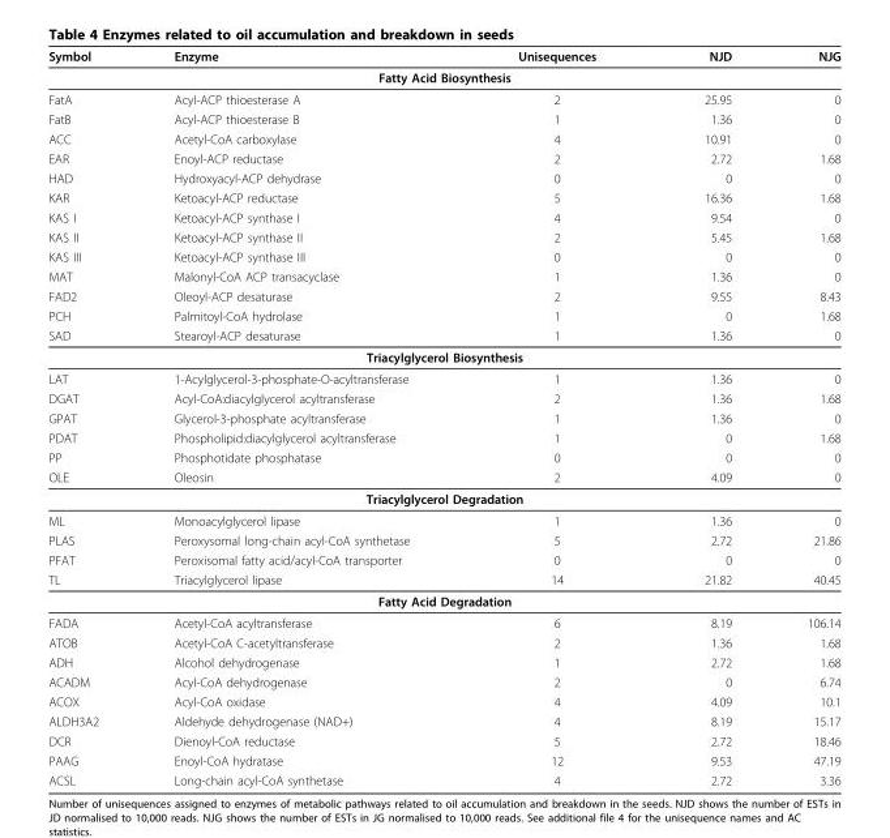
<table><thead><tr><td>Symbol</td><td>Enzyme</td><td>Unisequences</td><td>NJD</td><td>NJG</td></tr></thead><tbody><tr><td colspan="5">Fatty Acid Biosynthesis</td></tr><tr><td>FatA</td><td>Acyl-ACP thioesterase A</td><td>2</td><td>25.95</td><td>0</td></tr><tr><td>FatB</td><td>Acyl-ACP thioesterase B</td><td>1</td><td>1.36</td><td>0</td></tr><tr><td>ACC</td><td>Acetyl-CoA carboxylase</td><td>4</td><td>10.91</td><td>0</td></tr><tr><td>EAR</td><td>Enoyl-ACP reductase</td><td>2</td><td>2.72</td><td>1.68</td></tr><tr><td>HAD</td><td>Hydroxyacyl-ACP dehydrase</td><td>0</td><td>0</td><td>0</td></tr><tr><td>KAR</td><td>Ketoacyl-ACP reductase</td><td>5</td><td>16.36</td><td>1.68</td></tr><tr><td>KAS I</td><td>Ketoacyl-ACP synthase I</td><td>4</td><td>9.54</td><td>0</td></tr><tr><td>KAS II</td><td>Ketoacyl-ACP synthase II</td><td>2</td><td>5.45</td><td>1.68</td></tr><tr><td>KAS III</td><td>Ketoacyl-ACP synthase III</td><td>0</td><td>0</td><td>0</td></tr><tr><td>MAT</td><td>Malonyl-CoA ACP transacyclase</td><td>1</td><td>1.36</td><td>0</td></tr><tr><td>FAD2</td><td>Oleoyl-ACP desaturase</td><td>2</td><td>9.55</td><td>8.43</td></tr><tr><td>PCH</td><td>Palmitoyl-CoA hydrolase</td><td>1</td><td>0</td><td>1.68</td></tr><tr><td>SAD</td><td>Stearoyl-ACP desaturase</td><td>1</td><td>1.36</td><td>0</td></tr><tr><td colspan="5">Triacylglycerol Biosynthesis</td></tr><tr><td>LAT</td><td>1-Acylglycerol-3-phosphate-O-acyltransferase</td><td>1</td><td>1.36</td><td>0</td></tr><tr><td>DGAT</td><td>Acyl-CoA:diacylglycerol acyltransferase</td><td>2</td><td>1.36</td><td>1.68</td></tr><tr><td>GPAT</td><td>Glycerol-3-phosphate acyltransferase</td><td>1</td><td>1.36</td><td>0</td></tr><tr><td>PDAT</td><td>Phospholipid:diacylglycerol acyltransferase</td><td>1</td><td>0</td><td>1.68</td></tr><tr><td>PP</td><td>Phosphotidate phosphatase</td><td>0</td><td>0</td><td>0</td></tr><tr><td>OLE</td><td>Oleosin</td><td>2</td><td>4.09</td><td>0</td></tr><tr><td colspan="5">Triacylglycerol Degradation</td></tr><tr><td>ML</td><td>Monoacylglycerol lipase</td><td>1</td><td>1.36</td><td>0</td></tr><tr><td>PLAS</td><td>Peroxysomal long-chain acyl-CoA synthetase</td><td>5</td><td>2.72</td><td>21.86</td></tr><tr><td>PFAT</td><td>Peroxisomal fatty acid/acyl-CoA transporter</td><td>0</td><td>0</td><td>0</td></tr><tr><td>TL</td><td>Triacylglycerol lipase</td><td>14</td><td>21.82</td><td>40.45</td></tr><tr><td colspan="5">Fatty Acid Degradation</td></tr><tr><td>FADA</td><td>Acetyl-CoA acyltransferase</td><td>6</td><td>8.19</td><td>106.14</td></tr><tr><td>ATOB</td><td>Acetyl-CoA C-acetyltransferase</td><td>2</td><td>1.36</td><td>1.68</td></tr><tr><td>ADH</td><td>Alcohol dehydrogenase</td><td>1</td><td>2.72</td><td>1.68</td></tr><tr><td>ACADM</td><td>Acyl-CoA dehydrogenase</td><td>2</td><td>0</td><td>6.74</td></tr><tr><td>ACOX</td><td>Acyl-CoA oxidase</td><td>4</td><td>4.09</td><td>10.1</td></tr><tr><td>ALDH3A2</td><td>Aldehyde dehydrogenase (NAD+)</td><td>4</td><td>8.19</td><td>15.17</td></tr><tr><td>DCR</td><td>Dienoyl-CoA reductase</td><td>5</td><td>2.72</td><td>18.46</td></tr><tr><td>PAAG</td><td>Enoyl-CoA hydratase</td><td>12</td><td>9.53</td><td>47.19</td></tr><tr><td>ACSL</td><td>Long-chain acyl-CoA synthetase</td><td>4</td><td>2.72</td><td>3.36</td></tr></tbody></table>